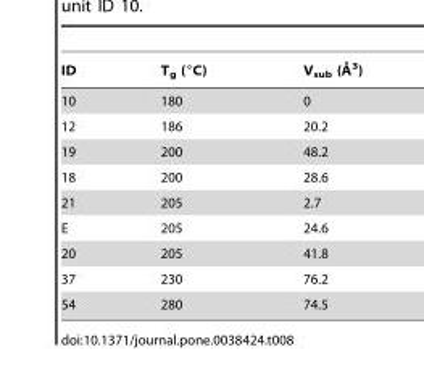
<table><thead><tr><td>ID</td><td>T<sub>g</sub> (°C)</td><td>Vsub (A˚ 3)</td></tr></thead><tbody><tr><td>10</td><td>180</td><td>0</td></tr><tr><td>12</td><td>186</td><td>20.2</td></tr><tr><td>19</td><td>200</td><td>48.2</td></tr><tr><td>18</td><td>200</td><td>28.6</td></tr><tr><td>21</td><td>205</td><td>2.7</td></tr><tr><td>E</td><td>205</td><td>24.6</td></tr><tr><td>20</td><td>205</td><td>41.8</td></tr><tr><td>37</td><td>230</td><td>76.2</td></tr><tr><td>54</td><td>280</td><td>74.5</td></tr></tbody></table>